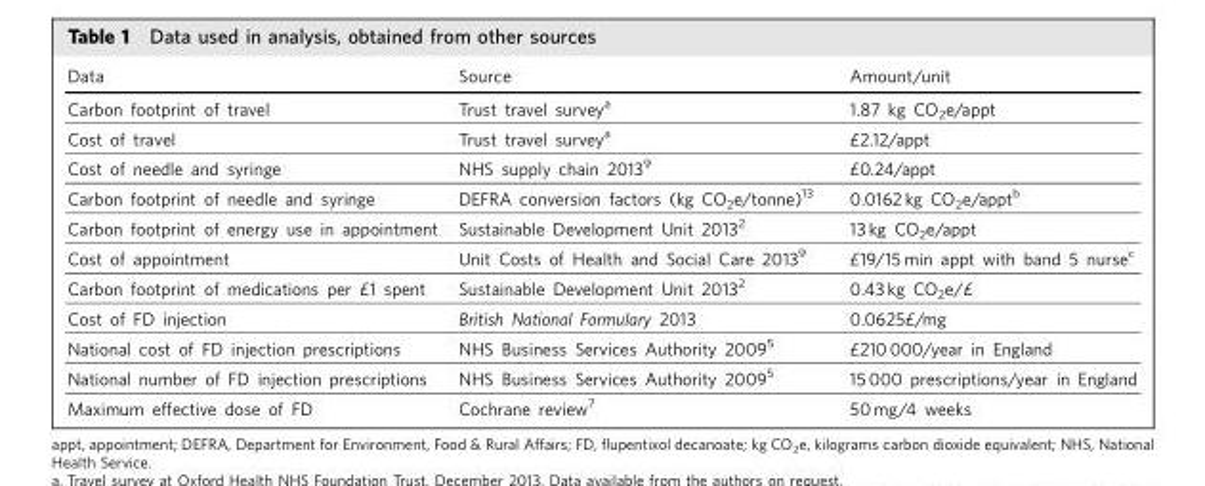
<table><thead><tr><td>Data</td><td>Source</td><td>Amount/unit</td></tr></thead><tbody><tr><td>Carbon footprint of travel</td><td>Trust travel survey<sup>a</sup></td><td>1.87 kg CO<sub>2</sub>e/appt</td></tr><tr><td>Cost of travel</td><td>Trust travel survey<sup>a</sup></td><td>£2.12/appt</td></tr><tr><td>Cost of needle and syringe</td><td>NHS supply chain 2013<sup>9</sup></td><td>£0.24/appt</td></tr><tr><td>Carbon footprint of needle and syringe</td><td>DEFRA conversion factors (kg CO<sub>2</sub>e/tonne)<sup>13</sup></td><td>0.0162 kg CO<sub>2</sub>e/appt<sup>b</sup></td></tr><tr><td>Carbon footprint of energy use in appointment</td><td>Sustainable Development Unit 2013<sup>2</sup></td><td>13 kg CO<sub>2</sub>e/appt</td></tr><tr><td>Cost of appointment</td><td>Unit Costs of Health and Social Care 2013<sup>9</sup></td><td>£19/15 min appt with band 5 nurse<sup>c</sup></td></tr><tr><td>Carbon footprint of medications per £1 spent</td><td>Sustainable Development Unit 2013<sup>2</sup></td><td>0.43 kg CO<sub>2</sub>e/£</td></tr><tr><td>Cost of FD injection</td><td>British National Formulary 2013</td><td>0.0625£/mg</td></tr><tr><td>National cost of FD injection prescriptions</td><td>NHS Business Services Authority 2009<sup>5</sup></td><td>£210 000/year in England</td></tr><tr><td>National number of FD injection prescriptions</td><td>NHS Business Services Authority 2009<sup>5</sup></td><td>15 000 prescriptions/year in England</td></tr><tr><td>Maximum effective dose of FD</td><td>Cochrane review<sup>7</sup></td><td>50 mg/4 weeks</td></tr></tbody></table>